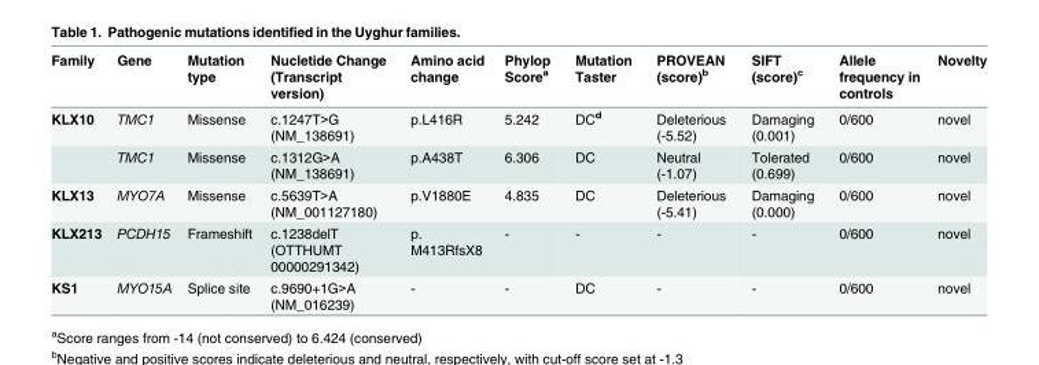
<table><thead><tr><td>Family</td><td>Gene</td><td>Mutation type</td><td>Nucletide Change (Transcript version)</td><td>Amino acid change</td><td>Phylop Score<sup>a</sup></td><td>Mutation Taster</td><td>PROVEAN (score)<sup>b</sup></td><td>SIFT (score)<sup>c</sup></td><td>Allele frequency in controls</td><td>Novelty</td></tr></thead><tbody><tr><td rowspan="2">KLX10</td><td>TMC1</td><td>Missense</td><td>c.1247T&gt;G (NM_138691)</td><td>p.L416R</td><td>5.242</td><td>DC<sup>d</sup></td><td>Deleterious (-5.52)</td><td>Damaging (0.001)</td><td>0/600</td><td>novel</td></tr><tr><td>TMC1</td><td>Missense</td><td>c.1312G&gt;A (NM_138691)</td><td>p.A438T</td><td>6.306</td><td>DC</td><td>Neutral (-1.07)</td><td>Tolerated (0.699)</td><td>0/600</td><td>novel</td></tr><tr><td>KLX13</td><td>MYO7A</td><td>Missense</td><td>c.5639T&gt;A (NM_001127180)</td><td>p.V1880E</td><td>4.835</td><td>DC</td><td>Deleterious (-5.41)</td><td>Damaging (0.000)</td><td>0/600</td><td>novel</td></tr><tr><td>KLX213</td><td>PCDH15</td><td>Frameshift</td><td>c.1238delT (OTTHUMT 00000291342)</td><td>p. M413RfsX8</td><td>-</td><td>-</td><td>-</td><td>-</td><td>0/600</td><td>novel</td></tr><tr><td>KS1</td><td>MYO15A</td><td>Splice site</td><td>c.9690+1G&gt;A (NM_016239)</td><td>-</td><td>-</td><td>DC</td><td>-</td><td>-</td><td>0/600</td><td>novel</td></tr></tbody></table>